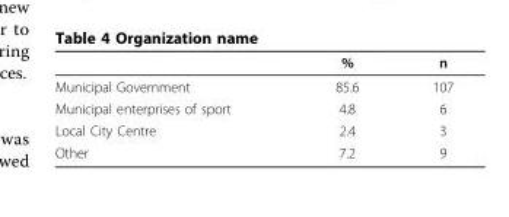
<table><thead><tr><td></td><td>%</td><td>n</td></tr></thead><tbody><tr><td>Municipal Government</td><td>85.6</td><td>107</td></tr><tr><td>Municipal enterprises of sport</td><td>4.8</td><td>6</td></tr><tr><td>Local City Centre</td><td>2.4</td><td>3</td></tr><tr><td>Other</td><td>7.2</td><td>9</td></tr></tbody></table>